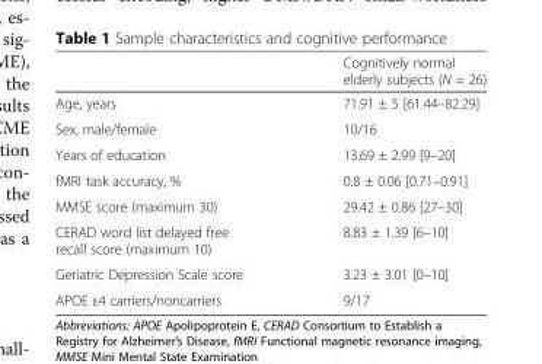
<table><thead><tr><td></td><td>Cognitively normal elderly subjects (N = 26)</td></tr></thead><tbody><tr><td>Age, years</td><td>71.91 ± 5 [61.44–82.29]</td></tr><tr><td>Sex, male/female</td><td>10/16</td></tr><tr><td>Years of education</td><td>13.69 ± 2.99 [9–20]</td></tr><tr><td>fMRI task accuracy, %</td><td>0.8 ± 0.06 [0.71–0.91]</td></tr><tr><td>MMSE score (maximum 30)</td><td>29.42 ± 0.86 [27–30]</td></tr><tr><td>CERAD word list delayed free recall score (maximum 10)</td><td>8.83 ± 1.39 [6–10]</td></tr><tr><td>Geriatric Depression Scale score</td><td>3.23 ± 3.01 [0–10]</td></tr><tr><td>APOE ε4 carriers/noncarriers</td><td>9/17</td></tr></tbody></table>